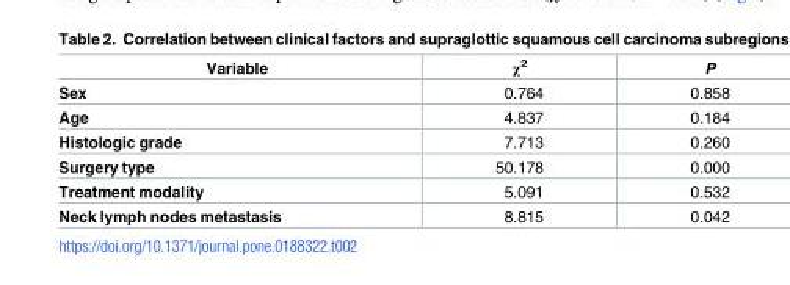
<table><thead><tr><td>Variable</td><td>χ<sup>2</sup></td><td>P</td></tr></thead><tbody><tr><td>Sex</td><td>0.764</td><td>0.858</td></tr><tr><td>Age</td><td>4.837</td><td>0.184</td></tr><tr><td>Histologic grade</td><td>7.713</td><td>0.260</td></tr><tr><td>Surgery type</td><td>50.178</td><td>0.000</td></tr><tr><td>Treatment modality</td><td>5.091</td><td>0.532</td></tr><tr><td>Neck lymph nodes metastasis</td><td>8.815</td><td>0.042</td></tr></tbody></table>